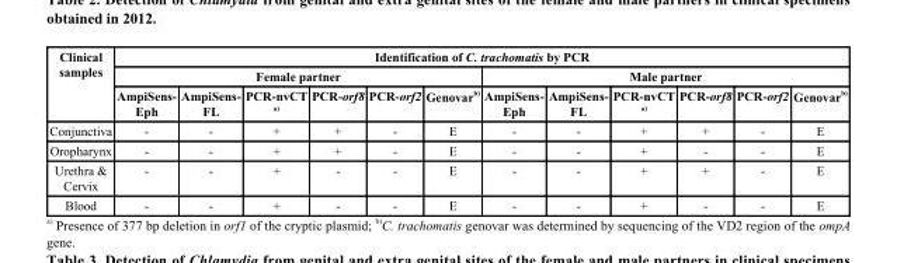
<table><thead><tr><td rowspan="3">Clinical samples</td><td colspan="12">Identification of С. trachomatis by PCR</td></tr><tr><td colspan="6">Female partner</td><td colspan="6">Male partner</td></tr><tr><td>AmpiSens- Eph</td><td>AmpiSens- FL</td><td>PCR-nvCT <sup>a)</sup></td><td>PCR-orf8</td><td>PCR-orf2</td><td>Genovar <sup>b)</sup></td><td>AmpiSens- Eph</td><td>AmpiSens- FL</td><td>PCR-nvCT <sup>a)</sup></td><td>PCR-orf8</td><td>PCR-orf2</td><td>Genovar <sup>b)</sup></td></tr></thead><tbody><tr><td>Conjunctiva</td><td>-</td><td>-</td><td>+</td><td>+</td><td>-</td><td>E</td><td>-</td><td>-</td><td>+</td><td>+</td><td>-</td><td>E</td></tr><tr><td>Oropharynx</td><td>-</td><td>-</td><td>+</td><td>+</td><td>-</td><td>E</td><td>-</td><td>-</td><td>+</td><td>-</td><td>-</td><td>E</td></tr><tr><td>Urethra &amp; Cervix</td><td>-</td><td>-</td><td>+</td><td>-</td><td>-</td><td>E</td><td>-</td><td>-</td><td>+</td><td>+</td><td>-</td><td>E</td></tr><tr><td>Blood</td><td>-</td><td>-</td><td>+</td><td>-</td><td>-</td><td>E</td><td>-</td><td>-</td><td>+</td><td>-</td><td>-</td><td>E</td></tr></tbody></table>